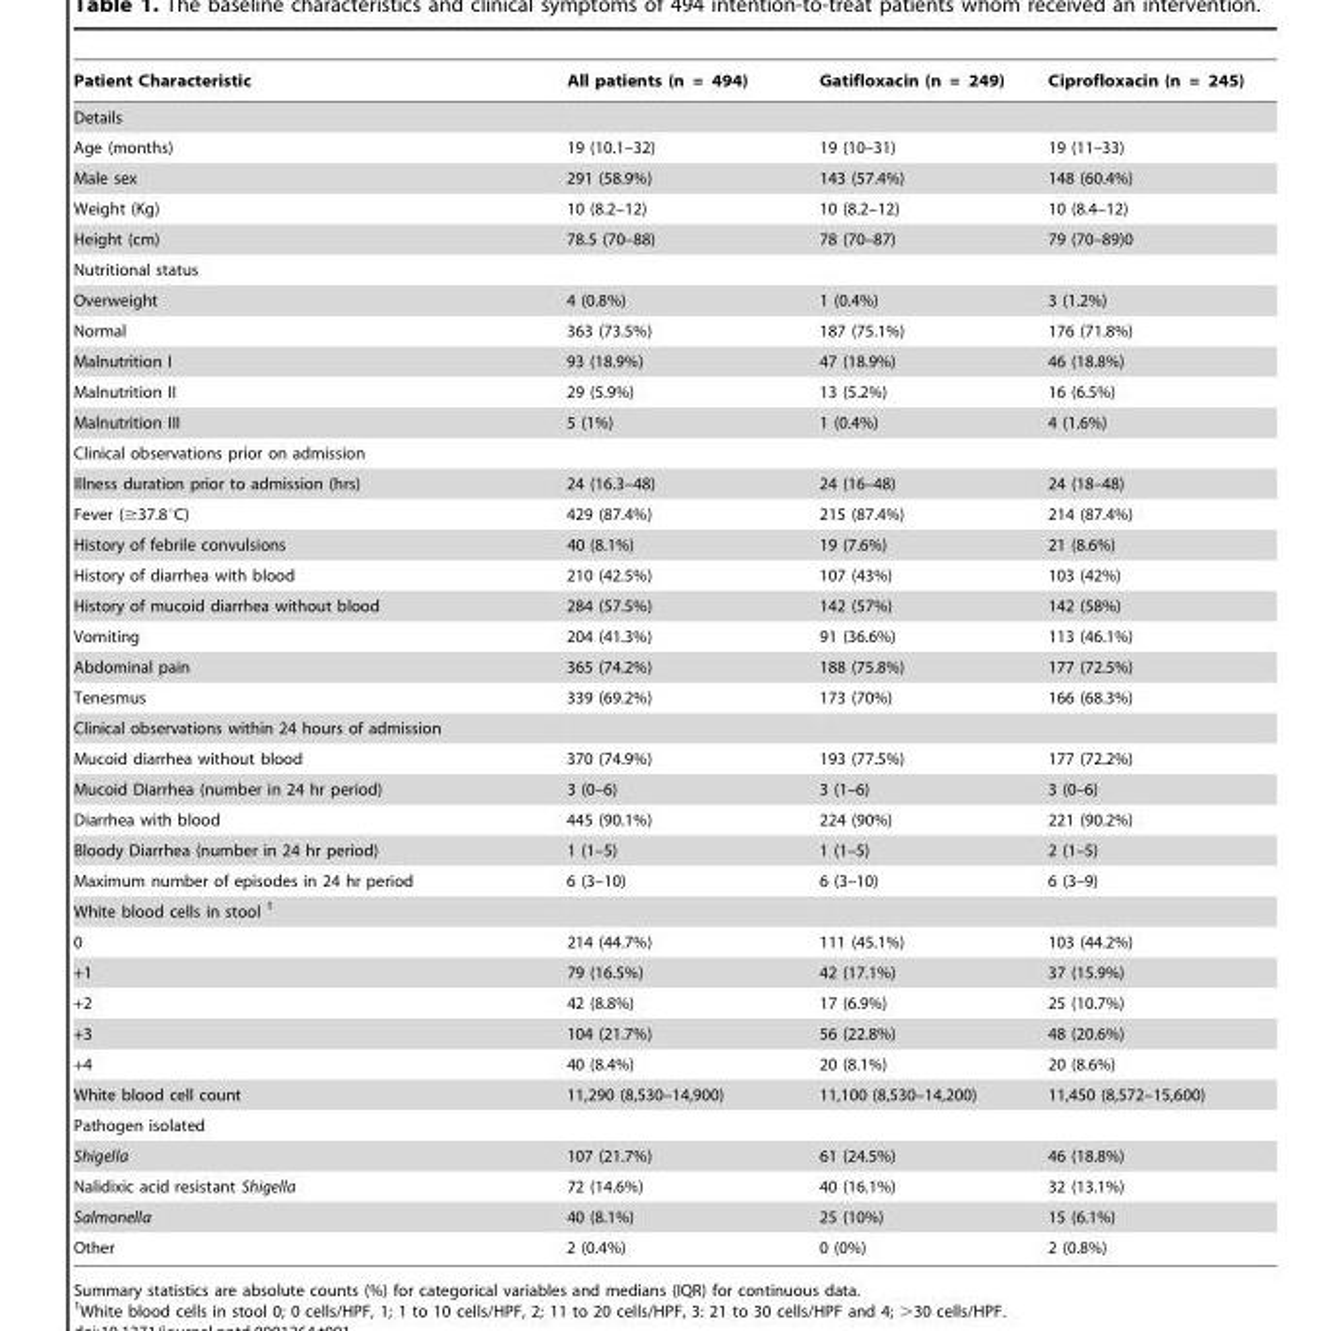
<table><thead><tr><td>Patient Characteristic</td><td>All patients (n = 494)</td><td>Gatifloxacin (n = 249)</td><td>Ciprofloxacin (n = 245)</td></tr></thead><tbody><tr><td colspan="4">Details</td></tr><tr><td>Age (months)</td><td>19 (10.1–32)</td><td>19 (10–31)</td><td>19 (11–33)</td></tr><tr><td>Male sex</td><td>291 (58.9%)</td><td>143 (57.4%)</td><td>148 (60.4%)</td></tr><tr><td>Weight (Kg)</td><td>10 (8.2–12)</td><td>10 (8.2–12)</td><td>10 (8.4–12)</td></tr><tr><td>Height (cm)</td><td>78.5 (70–88)</td><td>78 (70–87)</td><td>79 (70–89)0</td></tr><tr><td colspan="4">Nutritional status</td></tr><tr><td>Overweight</td><td>4 (0.8%)</td><td>1 (0.4%)</td><td>3 (1.2%)</td></tr><tr><td>Normal</td><td>363 (73.5%)</td><td>187 (75.1%)</td><td>176 (71.8%)</td></tr><tr><td>Malnutrition I</td><td>93 (18.9%)</td><td>47 (18.9%)</td><td>46 (18.8%)</td></tr><tr><td>Malnutrition II</td><td>29 (5.9%)</td><td>13 (5.2%)</td><td>16 (6.5%)</td></tr><tr><td>Malnutrition III</td><td>5 (1%)</td><td>1 (0.4%)</td><td>4 (1.6%)</td></tr><tr><td colspan="4">Clinical observations prior on admission</td></tr><tr><td>Illness duration prior to admission (hrs)</td><td>24 (16.3–48)</td><td>24 (16–48)</td><td>24 (18–48)</td></tr><tr><td>Fever (≥37.8°C)</td><td>429 (87.4%)</td><td>215 (87.4%)</td><td>214 (87.4%)</td></tr><tr><td>History of febrile convulsions</td><td>40 (8.1%)</td><td>19 (7.6%)</td><td>21 (8.6%)</td></tr><tr><td>History of diarrhea with blood</td><td>210 (42.5%)</td><td>107 (43%)</td><td>103 (42%)</td></tr><tr><td>History of mucoid diarrhea without blood</td><td>284 (57.5%)</td><td>142 (57%)</td><td>142 (58%)</td></tr><tr><td>Vomiting</td><td>204 (41.3%)</td><td>91 (36.6%)</td><td>113 (46.1%)</td></tr><tr><td>Abdominal pain</td><td>365 (74.2%)</td><td>188 (75.8%)</td><td>177 (72.5%)</td></tr><tr><td>Tenesmus</td><td>339 (69.2%)</td><td>173 (70%)</td><td>166 (68.3%)</td></tr><tr><td colspan="4">Clinical observations within 24 hours of admission</td></tr><tr><td>Mucoid diarrhea without blood</td><td>370 (74.9%)</td><td>193 (77.5%)</td><td>177 (72.2%)</td></tr><tr><td>Mucoid Diarrhea (number in 24 hr period)</td><td>3 (0–6)</td><td>3 (1–6)</td><td>3 (0–6)</td></tr><tr><td>Diarrhea with blood</td><td>445 (90.1%)</td><td>224 (90%)</td><td>221 (90.2%)</td></tr><tr><td>Bloody Diarrhea (number in 24 hr period)</td><td>1 (1–5)</td><td>1 (1–5)</td><td>2 (1–5)</td></tr><tr><td>Maximum number of episodes in 24 hr period</td><td>6 (3–10)</td><td>6 (3–10)</td><td>6 (3–9)</td></tr><tr><td colspan="4">White blood cells in stool 1</td></tr><tr><td>0</td><td>214 (44.7%)</td><td>111 (45.1%)</td><td>103 (44.2%)</td></tr><tr><td>+1</td><td>79 (16.5%)</td><td>42 (17.1%)</td><td>37 (15.9%)</td></tr><tr><td>+2</td><td>42 (8.8%)</td><td>17 (6.9%)</td><td>25 (10.7%)</td></tr><tr><td>+3</td><td>104 (21.7%)</td><td>56 (22.8%)</td><td>48 (20.6%)</td></tr><tr><td>+4</td><td>40 (8.4%)</td><td>20 (8.1%)</td><td>20 (8.6%)</td></tr><tr><td>White blood cell count</td><td>11,290 (8,530–14,900)</td><td>11,100 (8,530–14,200)</td><td>11,450 (8,572–15,600)</td></tr><tr><td colspan="4">Pathogen isolated</td></tr><tr><td>Shigella</td><td>107 (21.7%)</td><td>61 (24.5%)</td><td>46 (18.8%)</td></tr><tr><td>Nalidixic acid resistant Shigella</td><td>72 (14.6%)</td><td>40 (16.1%)</td><td>32 (13.1%)</td></tr><tr><td>Salmonella</td><td>40 (8.1%)</td><td>25 (10%)</td><td>15 (6.1%)</td></tr><tr><td>Other</td><td>2 (0.4%)</td><td>0 (0%)</td><td>2 (0.8%)</td></tr></tbody></table>